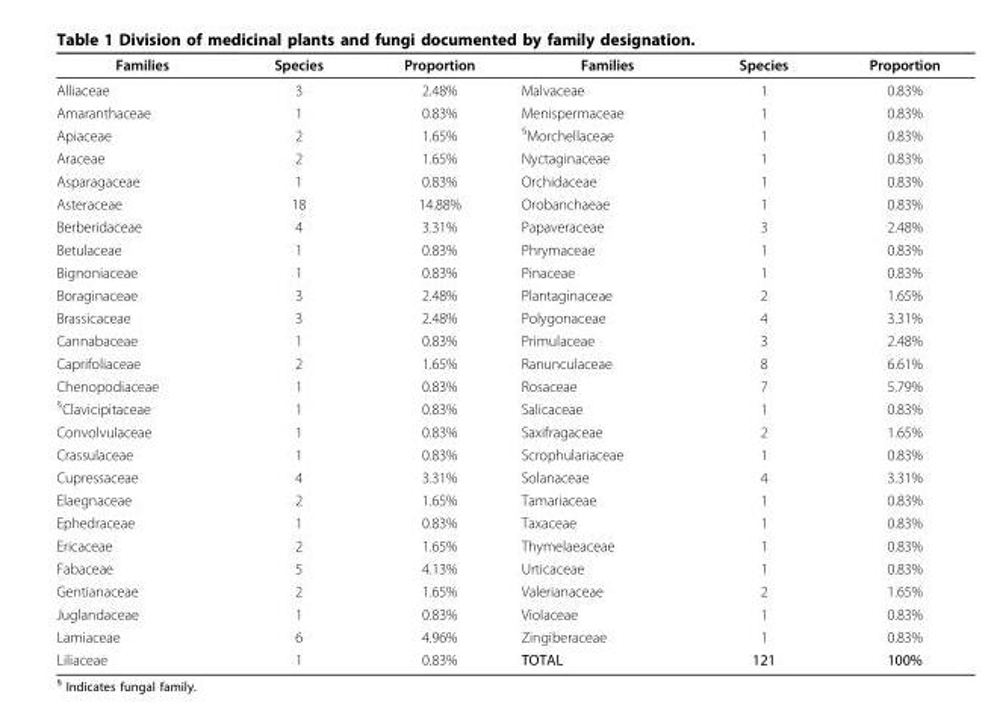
<table><thead><tr><td>Families</td><td>Species</td><td>Proportion</td><td>Families</td><td>Species</td><td>Proportion</td></tr></thead><tbody><tr><td>Alliaceae</td><td>3</td><td>2.48%</td><td>Malvaceae</td><td>1</td><td>0.83%</td></tr><tr><td>Amaranthaceae</td><td>1</td><td>0.83%</td><td>Menispermaceae</td><td>1</td><td>0.83%</td></tr><tr><td>Apiaceae</td><td>2</td><td>1.65%</td><td><sup>§</sup>Morchellaceae</td><td>1</td><td>0.83%</td></tr><tr><td>Araceae</td><td>2</td><td>1.65%</td><td>Nyctaginaceae</td><td>1</td><td>0.83%</td></tr><tr><td>Asparagaceae</td><td>1</td><td>0.83%</td><td>Orchidaceae</td><td>1</td><td>0.83%</td></tr><tr><td>Asteraceae</td><td>18</td><td>14.88%</td><td>Orobanchaeae</td><td>1</td><td>0.83%</td></tr><tr><td>Berberidaceae</td><td>4</td><td>3.31%</td><td>Papaveraceae</td><td>3</td><td>2.48%</td></tr><tr><td>Betulaceae</td><td>1</td><td>0.83%</td><td>Phrymaceae</td><td>1</td><td>0.83%</td></tr><tr><td>Bignoniaceae</td><td>1</td><td>0.83%</td><td>Pinaceae</td><td>1</td><td>0.83%</td></tr><tr><td>Boraginaceae</td><td>3</td><td>2.48%</td><td>Plantaginaceae</td><td>2</td><td>1.65%</td></tr><tr><td>Brassicaceae</td><td>3</td><td>2.48%</td><td>Polygonaceae</td><td>4</td><td>3.31%</td></tr><tr><td>Cannabaceae</td><td>1</td><td>0.83%</td><td>Primulaceae</td><td>3</td><td>2.48%</td></tr><tr><td>Caprifoliaceae</td><td>2</td><td>1.65%</td><td>Ranunculaceae</td><td>8</td><td>6.61%</td></tr><tr><td>Chenopodiaceae</td><td>1</td><td>0.83%</td><td>Rosaceae</td><td>7</td><td>5.79%</td></tr><tr><td><sup>§</sup>Clavicipitaceae</td><td>1</td><td>0.83%</td><td>Salicaceae</td><td>1</td><td>0.83%</td></tr><tr><td>Convolvulaceae</td><td>1</td><td>0.83%</td><td>Saxifragaceae</td><td>2</td><td>1.65%</td></tr><tr><td>Crassulaceae</td><td>1</td><td>0.83%</td><td>Scrophulariaceae</td><td>1</td><td>0.83%</td></tr><tr><td>Cupressaceae</td><td>4</td><td>3.31%</td><td>Solanaceae</td><td>4</td><td>3.31%</td></tr><tr><td>Elaegnaceae</td><td>2</td><td>1.65%</td><td>Tamariaceae</td><td>1</td><td>0.83%</td></tr><tr><td>Ephedraceae</td><td>1</td><td>0.83%</td><td>Taxaceae</td><td>1</td><td>0.83%</td></tr><tr><td>Ericaceae</td><td>2</td><td>1.65%</td><td>Thymelaeaceae</td><td>1</td><td>0.83%</td></tr><tr><td>Fabaceae</td><td>5</td><td>4.13%</td><td>Urticaceae</td><td>1</td><td>0.83%</td></tr><tr><td>Gentianaceae</td><td>2</td><td>1.65%</td><td>Valerianaceae</td><td>2</td><td>1.65%</td></tr><tr><td>Juglandaceae</td><td>1</td><td>0.83%</td><td>Violaceae</td><td>1</td><td>0.83%</td></tr><tr><td>Lamiaceae</td><td>6</td><td>4.96%</td><td>Zingiberaceae</td><td>1</td><td>0.83%</td></tr><tr><td>Liliaceae</td><td>1</td><td>0.83%</td><td>TOTAL</td><td>121</td><td>100%</td></tr></tbody></table>